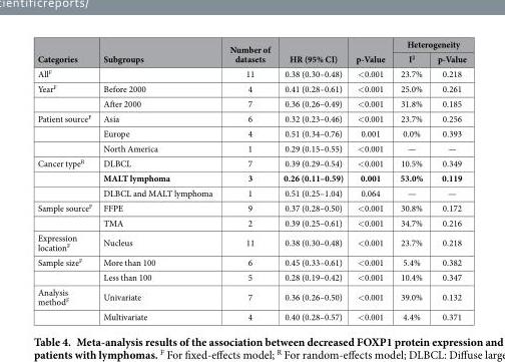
<table><thead><tr><td rowspan="2">Categories</td><td rowspan="2">Subgroups</td><td rowspan="2">Number of datasets</td><td rowspan="2">HR (95% CI)</td><td rowspan="2">p-Value</td><td colspan="2">Heterogeneity</td></tr><tr><td>I<sup>2</sup></td><td>p-Value</td></tr></thead><tbody><tr><td>All<sup>F</sup></td><td></td><td>11</td><td>0.38 (0.30–0.48)</td><td>&lt; 0.001</td><td>23.7%</td><td>0.218</td></tr><tr><td rowspan="2">Year<sup>F</sup></td><td>Before 2000</td><td>4</td><td>0.41 (0.28–0.61)</td><td>&lt; 0.001</td><td>25.0%</td><td>0.261</td></tr><tr><td>After 2000</td><td>7</td><td>0.36 (0.26–0.49)</td><td>&lt; 0.001</td><td>31.8%</td><td>0.185</td></tr><tr><td rowspan="3">Patient source<sup>F</sup></td><td>Asia</td><td>6</td><td>0.32 (0.23–0.46)</td><td>&lt; 0.001</td><td>23.7%</td><td>0.256</td></tr><tr><td>Europe</td><td>4</td><td>0.51 (0.34–0.76)</td><td>0.001</td><td>0.0%</td><td>0.393</td></tr><tr><td>North America</td><td>1</td><td>0.29 (0.15–0.55)</td><td>&lt; 0.001</td><td>—</td><td>—</td></tr><tr><td rowspan="3">Cancer type<sup>R</sup></td><td>DLBCL</td><td>7</td><td>0.39 (0.29–0.54)</td><td>&lt; 0.001</td><td>10.5%</td><td>0.349</td></tr><tr><td>MALT lymphoma</td><td>3</td><td>0.26 (0.11–0.59)</td><td>0.001</td><td>53.0%</td><td>0.119</td></tr><tr><td>DLBCL and MALT lymphoma</td><td>1</td><td>0.51 (0.25–1.04)</td><td>0.064</td><td>—</td><td>—</td></tr><tr><td rowspan="2">Sample source<sup>F</sup></td><td>FFPE</td><td>9</td><td>0.37 (0.28–0.50)</td><td>&lt; 0.001</td><td>30.8%</td><td>0.172</td></tr><tr><td>TMA</td><td>2</td><td>0.39 (0.25–0.61)</td><td>&lt; 0.001</td><td>34.7%</td><td>0.216</td></tr><tr><td>Expression location<sup>F</sup></td><td>Nucleus</td><td>11</td><td>0.38 (0.30–0.48)</td><td>&lt; 0.001</td><td>23.7%</td><td>0.218</td></tr><tr><td rowspan="2">Sample size<sup>F</sup></td><td>More than 100</td><td>6</td><td>0.45 (0.33–0.61)</td><td>&lt; 0.001</td><td>5.4%</td><td>0.382</td></tr><tr><td>Less than 100</td><td>5</td><td>0.28 (0.19–0.42)</td><td>&lt; 0.001</td><td>10.4%</td><td>0.347</td></tr><tr><td rowspan="2">Analysis method<sup>F</sup></td><td>Univariate</td><td>7</td><td>0.36 (0.26–0.50)</td><td>&lt; 0.001</td><td>39.0%</td><td>0.132</td></tr><tr><td>Multivariate</td><td>4</td><td>0.40 (0.28–0.57)</td><td>&lt; 0.001</td><td>4.4%</td><td>0.371</td></tr></tbody></table>